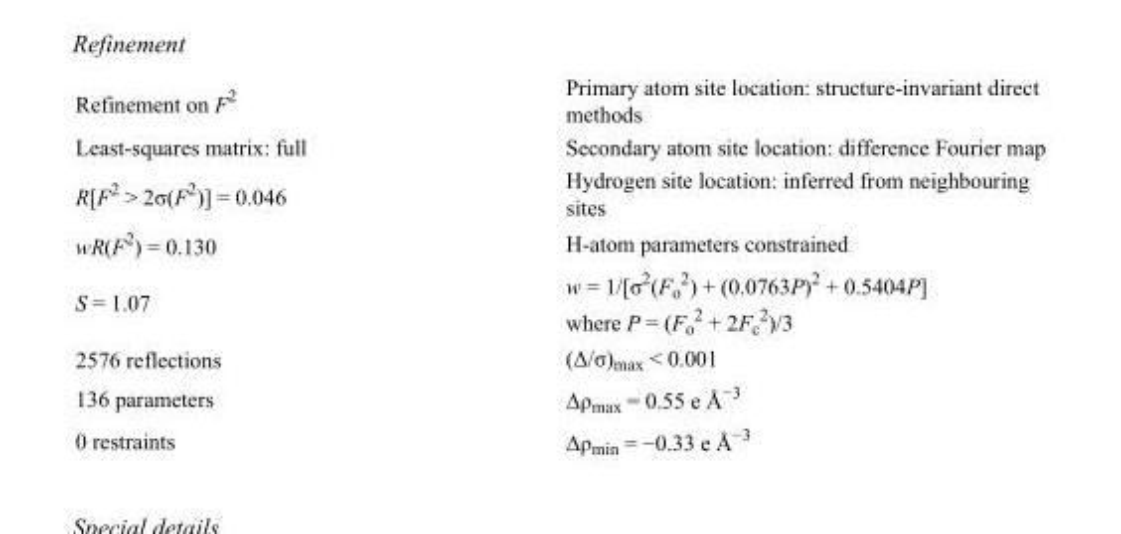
<table><tbody><tr><td>Refinement on F<sup>2</sup></td><td>Primary atom site location: structure-invariant direct methods</td></tr><tr><td>Least-squares matrix: full</td><td>Secondary atom site location: difference Fourier map</td></tr><tr><td>R[F<sup>2</sup> &gt; 2σ(F<sup>2</sup>)] = 0.046</td><td>Hydrogen site location: inferred from neighbouring sites</td></tr><tr><td>wR(F<sup>2</sup>) = 0.130</td><td>H-atom parameters constrained</td></tr><tr><td>S = 1.07</td><td>w = 1/[σ<sup>2</sup>(F<sub>o</sub> <sup>2</sup>) + (0.0763P)<sup>2</sup> + 0.5404P] where P = (F<sub>o</sub> <sup>2</sup> + 2F<sub>c</sub> <sup>2</sup>)/3</td></tr><tr><td>2576 reflections</td><td>(Δ/σ)<sub>max</sub> &lt; 0.001</td></tr><tr><td>136 parameters</td><td>Δρ<sub>max</sub> = 0.55 e Å<sup>−3</sup></td></tr><tr><td>0 restraints</td><td>Δρ<sub>min</sub> = −0.33 e Å<sup>−3</sup></td></tr></tbody></table>